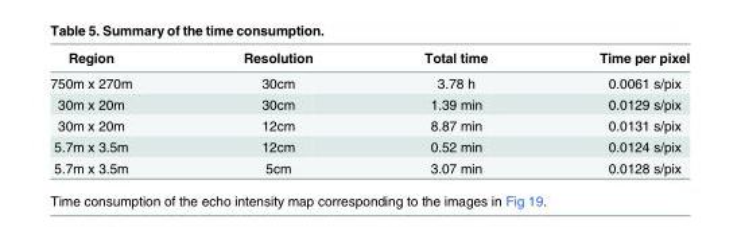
<table><thead><tr><td>Region</td><td>Resolution</td><td>Total time</td><td>Time per pixel</td></tr></thead><tbody><tr><td>750m x 270m</td><td>30cm</td><td>3.78 h</td><td>0.0061 s/pix</td></tr><tr><td>30m x 20m</td><td>30cm</td><td>1.39 min</td><td>0.0129 s/pix</td></tr><tr><td>30m x 20m</td><td>12cm</td><td>8.87 min</td><td>0.0131 s/pix</td></tr><tr><td>5.7m x 3.5m</td><td>12cm</td><td>0.52 min</td><td>0.0124 s/pix</td></tr><tr><td>5.7m x 3.5m</td><td>5cm</td><td>3.07 min</td><td>0.0128 s/pix</td></tr></tbody></table>